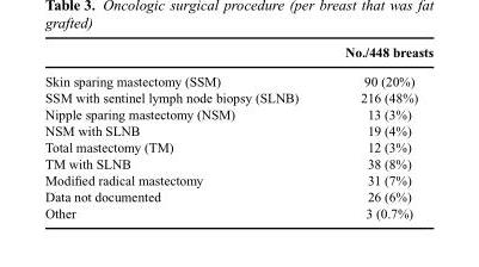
<table><thead><tr><td></td><td>No./448 breasts</td></tr></thead><tbody><tr><td>Skin sparing mastectomy (SSM)</td><td>90 (20%)</td></tr><tr><td>SSM with sentinel lymph node biopsy (SLNB)</td><td>216 (48%)</td></tr><tr><td>Nipple sparing mastectomy (NSM)</td><td>13 (3%)</td></tr><tr><td>NSM with SLNB</td><td>19 (4%)</td></tr><tr><td>Total mastectomy (TM)</td><td>12 (3%)</td></tr><tr><td>TM with SLNB</td><td>38 (8%)</td></tr><tr><td>Modified radical mastectomy</td><td>31 (7%)</td></tr><tr><td>Data not documented</td><td>26 (6%)</td></tr><tr><td>Other</td><td>3 (0.7%)</td></tr></tbody></table>